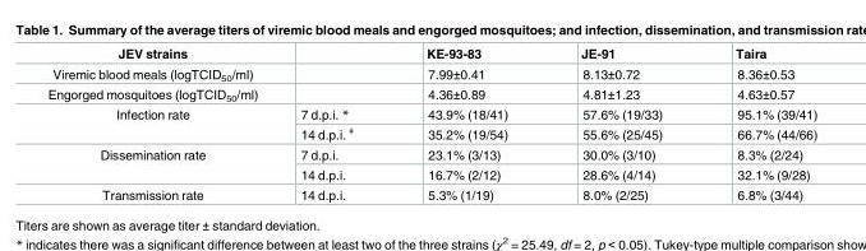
<table><thead><tr><td>JEV strains</td><td></td><td>KE-93-83</td><td>JE-91</td><td>Taira</td></tr></thead><tbody><tr><td>Viremic blood meals (logTCID<sub>50</sub>/ml)</td><td></td><td>7.99±0.41</td><td>8.13±0.72</td><td>8.36±0.53</td></tr><tr><td>Engorged mosquitoes (logTCID<sub>50</sub>/ml)</td><td></td><td>4.36±0.89</td><td>4.81±1.23</td><td>4.63±0.57</td></tr><tr><td rowspan="2">Infection rate</td><td>7 d.p.i. *</td><td>43.9% (18/41)</td><td>57.6% (19/33)</td><td>95.1% (39/41)</td></tr><tr><td>14 d.p.i. <sup>ǂ</sup></td><td>35.2% (19/54)</td><td>55.6% (25/45)</td><td>66.7% (44/66)</td></tr><tr><td rowspan="2">Dissemination rate</td><td>7 d.p.i.</td><td>23.1% (3/13)</td><td>30.0% (3/10)</td><td>8.3% (2/24)</td></tr><tr><td>14 d.p.i.</td><td>16.7% (2/12)</td><td>28.6% (4/14)</td><td>32.1% (9/28)</td></tr><tr><td>Transmission rate</td><td>14 d.p.i.</td><td>5.3% (1/19)</td><td>8.0% (2/25)</td><td>6.8% (3/44)</td></tr></tbody></table>